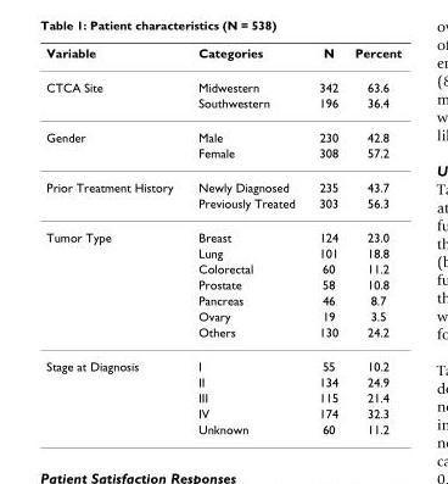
<table><thead><tr><td>Variable</td><td>Categories</td><td>N</td><td>Percent</td></tr></thead><tbody><tr><td rowspan="2">CTCA Site</td><td>Midwestern</td><td>342</td><td>63.6</td></tr><tr><td>Southwestern</td><td>196</td><td>36.4</td></tr><tr><td rowspan="2">Gender</td><td>Male</td><td>230</td><td>42.8</td></tr><tr><td>Female</td><td>308</td><td>57.2</td></tr><tr><td rowspan="2">Prior Treatment History</td><td>Newly Diagnosed</td><td>235</td><td>43.7</td></tr><tr><td>Previously Treated</td><td>303</td><td>56.3</td></tr><tr><td rowspan="7">Tumor Type</td><td>Breast</td><td>124</td><td>23.0</td></tr><tr><td>Lung</td><td>101</td><td>18.8</td></tr><tr><td>Colorectal</td><td>60</td><td>11.2</td></tr><tr><td>Prostate</td><td>58</td><td>10.8</td></tr><tr><td>Pancreas</td><td>46</td><td>8.7</td></tr><tr><td>Ovary</td><td>19</td><td>3.5</td></tr><tr><td>Others</td><td>130</td><td>24.2</td></tr><tr><td rowspan="5">Stage at Diagnosis</td><td>I</td><td>55</td><td>10.2</td></tr><tr><td>II</td><td>134</td><td>24.9</td></tr><tr><td>III</td><td>115</td><td>21.4</td></tr><tr><td>IV</td><td>174</td><td>32.3</td></tr><tr><td>Unknown</td><td>60</td><td>11.2</td></tr></tbody></table>